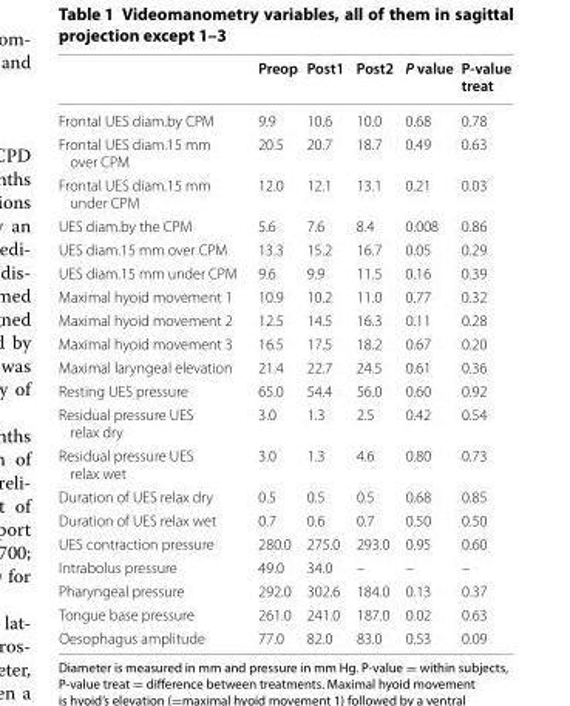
<table><thead><tr><td></td><td>Preop</td><td>Post1</td><td>Post2</td><td>P value</td><td>P-value treat</td></tr></thead><tbody><tr><td>Frontal UES diam.by CPM</td><td>9.9</td><td>10.6</td><td>10.0</td><td>0.68</td><td>0.78</td></tr><tr><td>Frontal UES diam.15 mm over CPM</td><td>20.5</td><td>20.7</td><td>18.7</td><td>0.49</td><td>0.63</td></tr><tr><td>Frontal UES diam.15 mm under CPM</td><td>12.0</td><td>12.1</td><td>13.1</td><td>0.21</td><td>0.03</td></tr><tr><td>UES diam.by the CPM</td><td>5.6</td><td>7.6</td><td>8.4</td><td>0.008</td><td>0.86</td></tr><tr><td>UES diam.15 mm over CPM</td><td>13.3</td><td>15.2</td><td>16.7</td><td>0.05</td><td>0.29</td></tr><tr><td>UES diam.15 mm under CPM</td><td>9.6</td><td>9.9</td><td>11.5</td><td>0.16</td><td>0.39</td></tr><tr><td>Maximal hyoid movement 1</td><td>10.9</td><td>10.2</td><td>11.0</td><td>0.77</td><td>0.32</td></tr><tr><td>Maximal hyoid movement 2</td><td>12.5</td><td>14.5</td><td>16.3</td><td>0.11</td><td>0.28</td></tr><tr><td>Maximal hyoid movement 3</td><td>16.5</td><td>17.5</td><td>18.2</td><td>0.67</td><td>0.20</td></tr><tr><td>Maximal laryngeal elevation</td><td>21.4</td><td>22.7</td><td>24.5</td><td>0.61</td><td>0.36</td></tr><tr><td>Resting UES pressure</td><td>65.0</td><td>54.4</td><td>56.0</td><td>0.60</td><td>0.92</td></tr><tr><td>Residual pressure UES relax dry</td><td>3.0</td><td>1.3</td><td>2.5</td><td>0.42</td><td>0.54</td></tr><tr><td>Residual pressure UES relax wet</td><td>3.0</td><td>1.3</td><td>4.6</td><td>0.80</td><td>0.73</td></tr><tr><td>Duration of UES relax dry</td><td>0.5</td><td>0.5</td><td>0.5</td><td>0.68</td><td>0.85</td></tr><tr><td>Duration of UES relax wet</td><td>0.7</td><td>0.6</td><td>0.7</td><td>0.50</td><td>0.50</td></tr><tr><td>UES contraction pressure</td><td>280.0</td><td>275.0</td><td>293.0</td><td>0.95</td><td>0.60</td></tr><tr><td>Intrabolus pressure</td><td>49.0</td><td>34.0</td><td>–</td><td>–</td><td>–</td></tr><tr><td>Pharyngeal pressure</td><td>292.0</td><td>302.6</td><td>184.0</td><td>0.13</td><td>0.37</td></tr><tr><td>Tongue base pressure</td><td>261.0</td><td>241.0</td><td>187.0</td><td>0.02</td><td>0.63</td></tr><tr><td>Oesophagus amplitude</td><td>77.0</td><td>82.0</td><td>83.0</td><td>0.53</td><td>0.09</td></tr></tbody></table>